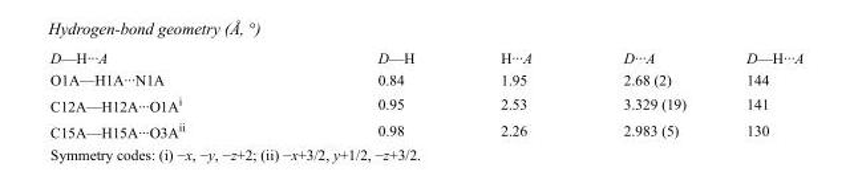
<table><tbody><tr><td>D—H···A</td><td>D—H</td><td>H···A</td><td>D···A</td><td>D—H···A</td></tr><tr><td>O1A—H1A···N1A</td><td>0.84</td><td>1.95</td><td>2.68 (2)</td><td>144</td></tr><tr><td>C12A—H12A···O1A<sup>i</sup></td><td>0.95</td><td>2.53</td><td>3.329 (19)</td><td>141</td></tr><tr><td>C15A—H15A···O3A<sup>ii</sup></td><td>0.98</td><td>2.26</td><td>2.983 (5)</td><td>130</td></tr></tbody></table>